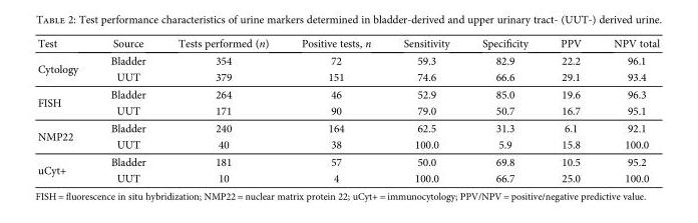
<table><thead><tr><td>Test</td><td>Source</td><td>Tests performed (n)</td><td>Positive tests, n</td><td>Sensitivity</td><td>Specificity</td><td>PPV</td><td>NPV total</td></tr></thead><tbody><tr><td rowspan="2">Cytology</td><td>Bladder</td><td>354</td><td>72</td><td>59.3</td><td>82.9</td><td>22.2</td><td>96.1</td></tr><tr><td>UUT</td><td>379</td><td>151</td><td>74.6</td><td>66.6</td><td>29.1</td><td>93.4</td></tr><tr><td rowspan="2">FISH</td><td>Bladder</td><td>264</td><td>46</td><td>52.9</td><td>85.0</td><td>19.6</td><td>96.3</td></tr><tr><td>UUT</td><td>171</td><td>90</td><td>79.0</td><td>50.7</td><td>16.7</td><td>95.1</td></tr><tr><td rowspan="2">NMP22</td><td>Bladder</td><td>240</td><td>164</td><td>62.5</td><td>31.3</td><td>6.1</td><td>92.1</td></tr><tr><td>UUT</td><td>40</td><td>38</td><td>100.0</td><td>5.9</td><td>15.8</td><td>100.0</td></tr><tr><td rowspan="2">uCyt+</td><td>Bladder</td><td>181</td><td>57</td><td>50.0</td><td>69.8</td><td>10.5</td><td>95.2</td></tr><tr><td>UUT</td><td>10</td><td>4</td><td>100.0</td><td>66.7</td><td>25.0</td><td>100.0</td></tr></tbody></table>